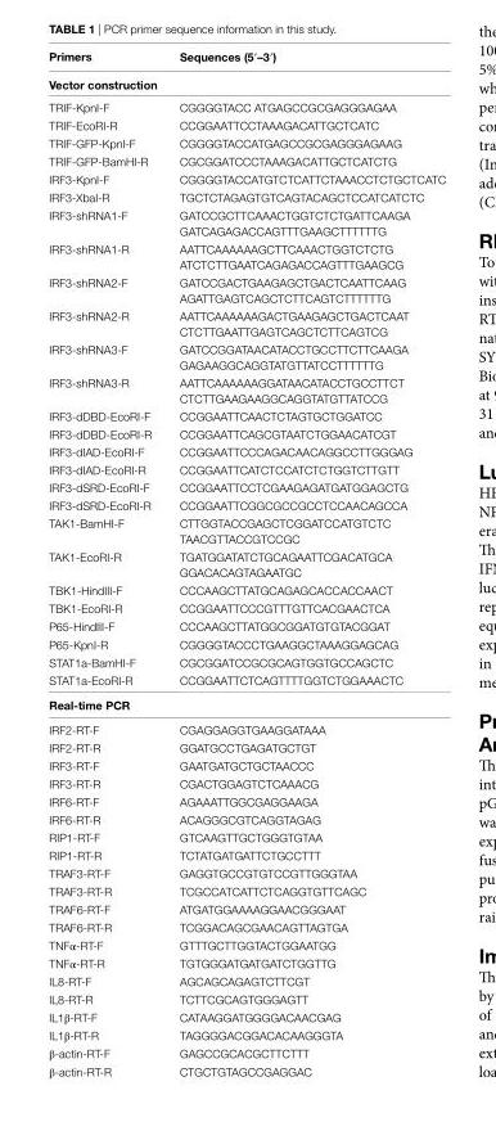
<table><thead><tr><td>Primers</td><td>sequences (5′–3′)</td></tr></thead><tbody><tr><td colspan="2">Vector construction</td></tr><tr><td>TRIF-KpnI-F</td><td>CGGGGTACC ATGAGCCGCGAGGGAGAA</td></tr><tr><td>TRIF-EcoRI-R</td><td>CCGGAATTCCTAAAGACATTGCTCATC</td></tr><tr><td>TRIF-GFP-KpnI-F</td><td>CGGGGTACCATGAGCCGCGAGGGAGAAG</td></tr><tr><td>TRIF-GFP-BamHI-R</td><td>CGCGGATCCCTAAAGACATTGCTCATCTG</td></tr><tr><td>IRF3-KpnI-F</td><td>CGGGGTACCATGTCTCATTCTAAACCTCTGCTCATC</td></tr><tr><td>IRF3-XbaI-R</td><td>TGCTCTAGAGTGTCAGTACAGCTCCATCATCTC</td></tr><tr><td>IRF3-shRNA1-F</td><td>GATCCGCTTCAAACTGGTCTCTGATTCAAGA GATCAGAGACCAGTTTGAAGCTTTTTTG</td></tr><tr><td>IRF3-shRNA1-R</td><td>AATTCAAAAAAGCTTCAAACTGGTCTCTG ATCTCTTGAATCAGAGACCAGTTTGAAGCG</td></tr><tr><td>IRF3-shRNA2-F</td><td>GATCCGACTGAAGAGCTGACTCAATTCAAG AGATTGAGTCAGCTCTTCAGTCTTTTTTG</td></tr><tr><td>IRF3-shRNA2-R</td><td>AATTCAAAAAAGACTGAAGAGCTGACTCAAT CTCTTGAATTGAGTCAGCTCTTCAGTCG</td></tr><tr><td>IRF3-shRNA3-F</td><td>GATCCGGATAACATACCTGCCTTCTTCAAGA GAGAAGGCAGGTATGTTATCCTTTTTTG</td></tr><tr><td>IRF3-shRNA3-R</td><td>AATTCAAAAAAGGATAACATACCTGCCTTCT CTCTTGAAGAAGGCAGGTATGTTATCCG</td></tr><tr><td>IRF3-dDBD-EcoRI-F</td><td>CCGGAATTCAACTCTAGTGCTGGATCC</td></tr><tr><td>IRF3-dDBD-EcoRI-R</td><td>CCGGAATTCAGCGTAATCTGGAACATCGT</td></tr><tr><td>IRF3-dIAD-EcoRI-F</td><td>CCGGAATTCCCAGACAACAGGCCTTGGGAG</td></tr><tr><td>IRF3-dIAD-EcoRI-R</td><td>CCGGAATTCATCTCCATCTCTGGTCTTGTT</td></tr><tr><td>IRF3-dSRD-EcoRI-F</td><td>CCGGAATTCCTCGAAGAGATGATGGAGCTG</td></tr><tr><td>IRF3-dSRD-EcoRI-R</td><td>CCGGAATTCGGCGCCGCCTCCAACAGCCA</td></tr><tr><td>TAK1-BamHI-F</td><td>CTTGGTACCGAGCTCGGATCCATGTCTC TAACGTTACCGTCCGC</td></tr><tr><td>TAK1-EcoRI-R</td><td>TGATGGATATCTGCAGAATTCGACATGCA GGACACAGTAGAATGC</td></tr><tr><td>TBK1-HindIII-F</td><td>CCCAAGCTTATGCAGAGCACCACCAACT</td></tr><tr><td>TBK1-EcoRI-R</td><td>CCGGAATTCCCGTTTGTTCACGAACTCA</td></tr><tr><td>P65-HindIII-F</td><td>CCCAAGCTTATGGCGGATGTGTACGGAT</td></tr><tr><td>P65-KpnI-R</td><td>CGGGGTACCCTGAAGGCTAAAGGAGCAG</td></tr><tr><td>STAT1a-BamHI-F</td><td>CGCGGATCCGCGCAGTGGTGCCAGCTC</td></tr><tr><td>STAT1a-EcoRI-R</td><td>CCGGAATTCTCAGTTTTGGTCTGGAAACTC</td></tr><tr><td colspan="2">real-time Pcr</td></tr><tr><td>IRF2-RT-F</td><td>CGAGGAGGTGAAGGATAAA</td></tr><tr><td>IRF2-RT-R</td><td>GGATGCCTGAGATGCTGT</td></tr><tr><td>IRF3-RT-F</td><td>GAATGATGCTGCTAACCC</td></tr><tr><td>IRF3-RT-R</td><td>CGACTGGAGTCTCAAACG</td></tr><tr><td>IRF6-RT-F</td><td>AGAAATTGGCGAGGAAGA</td></tr><tr><td>IRF6-RT-R</td><td>ACAGGGCGTCAGGTAGAG</td></tr><tr><td>RIP1-RT-F</td><td>GTCAAGTTGCTGGGTGTAA</td></tr><tr><td>RIP1-RT-R</td><td>TCTATGATGATTCTGCCTTT</td></tr><tr><td>TRAF3-RT-F</td><td>GAGGTGCCGTGTCCGTTGGGTAA</td></tr><tr><td>TRAF3-RT-R</td><td>TCGCCATCATTCTCAGGTGTTCAGC</td></tr><tr><td>TRAF6-RT-F</td><td>ATGATGGAAAAGGAACGGGAAT</td></tr><tr><td>TRAF6-RT-R</td><td>TCGGACAGCGAACAGTTAGTGA</td></tr><tr><td>TNFα-RT-F</td><td>GTTTGCTTGGTACTGGAATGG</td></tr><tr><td>TNFα-RT-R</td><td>TGTGGGATGATGATCTGGTTG</td></tr><tr><td>IL8-RT-F</td><td>AGCAGCAGAGTCTTCGT</td></tr><tr><td>IL8-RT-R</td><td>TCTTCGCAGTGGGAGTT</td></tr><tr><td>IL1β-RT-F</td><td>CATAAGGATGGGGACAACGAG</td></tr><tr><td>IL1β-RT-R</td><td>TAGGGGACGGACACAAGGGTA</td></tr><tr><td>β-actin-RT-F</td><td>GAGCCGCACGCTTCTTT</td></tr><tr><td>β-actin-RT-R</td><td>CTGCTGTAGCCGAGGAC</td></tr></tbody></table>